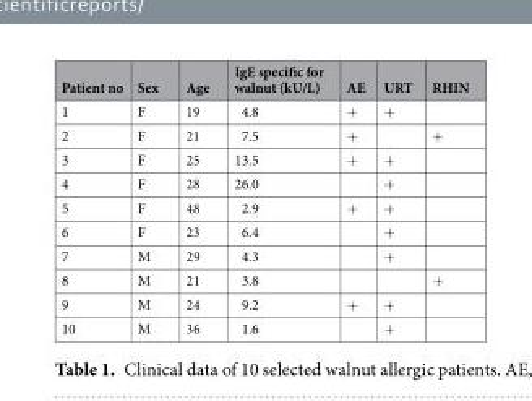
<table><thead><tr><td>Patient no</td><td>Sex</td><td>Age</td><td>IgE specific for walnut (kU/L)</td><td>AE</td><td>URT</td><td>RHIN</td></tr></thead><tbody><tr><td>1</td><td>F</td><td>19</td><td>4.8</td><td>+</td><td>+</td><td></td></tr><tr><td>2</td><td>F</td><td>21</td><td>7.5</td><td>+</td><td></td><td>+</td></tr><tr><td>3</td><td>F</td><td>25</td><td>13.5</td><td>+</td><td>+</td><td></td></tr><tr><td>4</td><td>F</td><td>28</td><td>26.0</td><td></td><td>+</td><td></td></tr><tr><td>5</td><td>F</td><td>48</td><td>2.9</td><td>+</td><td>+</td><td></td></tr><tr><td>6</td><td>F</td><td>23</td><td>6.4</td><td></td><td>+</td><td></td></tr><tr><td>7</td><td>M</td><td>29</td><td>4.3</td><td></td><td>+</td><td></td></tr><tr><td>8</td><td>M</td><td>21</td><td>3.8</td><td></td><td></td><td>+</td></tr><tr><td>9</td><td>M</td><td>24</td><td>9.2</td><td>+</td><td>+</td><td></td></tr><tr><td>10</td><td>M</td><td>36</td><td>1.6</td><td></td><td>+</td><td></td></tr></tbody></table>